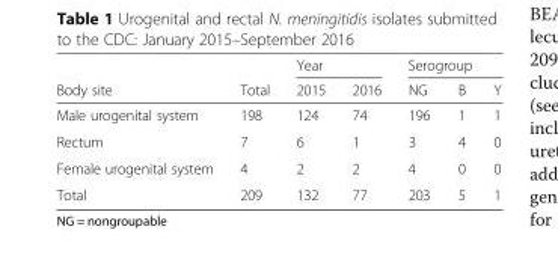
<table><thead><tr><td rowspan="2">Body site</td><td rowspan="2">Total</td><td colspan="2">Year</td><td colspan="3">Serogroup</td></tr><tr><td>2015</td><td>2016</td><td>NG</td><td>B</td><td>Y</td></tr></thead><tbody><tr><td>Male urogenital system</td><td>198</td><td>124</td><td>74</td><td>196</td><td>1</td><td>1</td></tr><tr><td>Rectum</td><td>7</td><td>6</td><td>1</td><td>3</td><td>4</td><td>0</td></tr><tr><td>Female urogenital system</td><td>4</td><td>2</td><td>2</td><td>4</td><td>0</td><td>0</td></tr><tr><td>Total</td><td>209</td><td>132</td><td>77</td><td>203</td><td>5</td><td>1</td></tr></tbody></table>